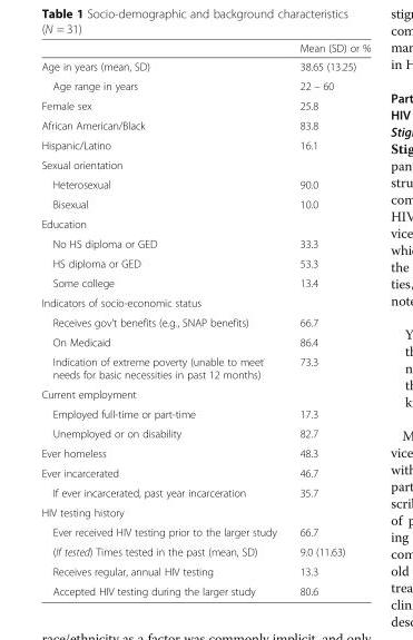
<table><thead><tr><td></td><td>Mean (SD) or %</td></tr></thead><tbody><tr><td>Age in years (mean, SD)</td><td>38.65 (13.25)</td></tr><tr><td>Age range in years</td><td>22 – 60</td></tr><tr><td>Female sex</td><td>25.8</td></tr><tr><td>African American/Black</td><td>83.8</td></tr><tr><td>Hispanic/Latino</td><td>16.1</td></tr><tr><td colspan="2">Sexual orientation</td></tr><tr><td>Heterosexual</td><td>90.0</td></tr><tr><td>Bisexual</td><td>10.0</td></tr><tr><td colspan="2">Education</td></tr><tr><td>No HS diploma or GED</td><td>33.3</td></tr><tr><td>HS diploma or GED</td><td>53.3</td></tr><tr><td>Some college</td><td>13.4</td></tr><tr><td colspan="2">Indicators of socio-economic status</td></tr><tr><td>Receives gov’t benefits (e.g., SNAP benefits)</td><td>66.7</td></tr><tr><td>On Medicaid</td><td>86.4</td></tr><tr><td>Indication of extreme poverty (unable to meet needs for basic necessities in past 12 months)</td><td>73.3</td></tr><tr><td colspan="2">Current employment</td></tr><tr><td>Employed full-time or part-time</td><td>17.3</td></tr><tr><td>Unemployed or on disability</td><td>82.7</td></tr><tr><td>Ever homeless</td><td>48.3</td></tr><tr><td>Ever incarcerated</td><td>46.7</td></tr><tr><td>If ever incarcerated, past year incarceration</td><td>35.7</td></tr><tr><td colspan="2">HIV testing history</td></tr><tr><td>Ever received HIV testing prior to the larger study</td><td>66.7</td></tr><tr><td>(If tested) Times tested in the past (mean, SD)</td><td>9.0 (11.63)</td></tr><tr><td>Receives regular, annual HIV testing</td><td>13.3</td></tr><tr><td>Accepted HIV testing during the larger study</td><td>80.6</td></tr></tbody></table>